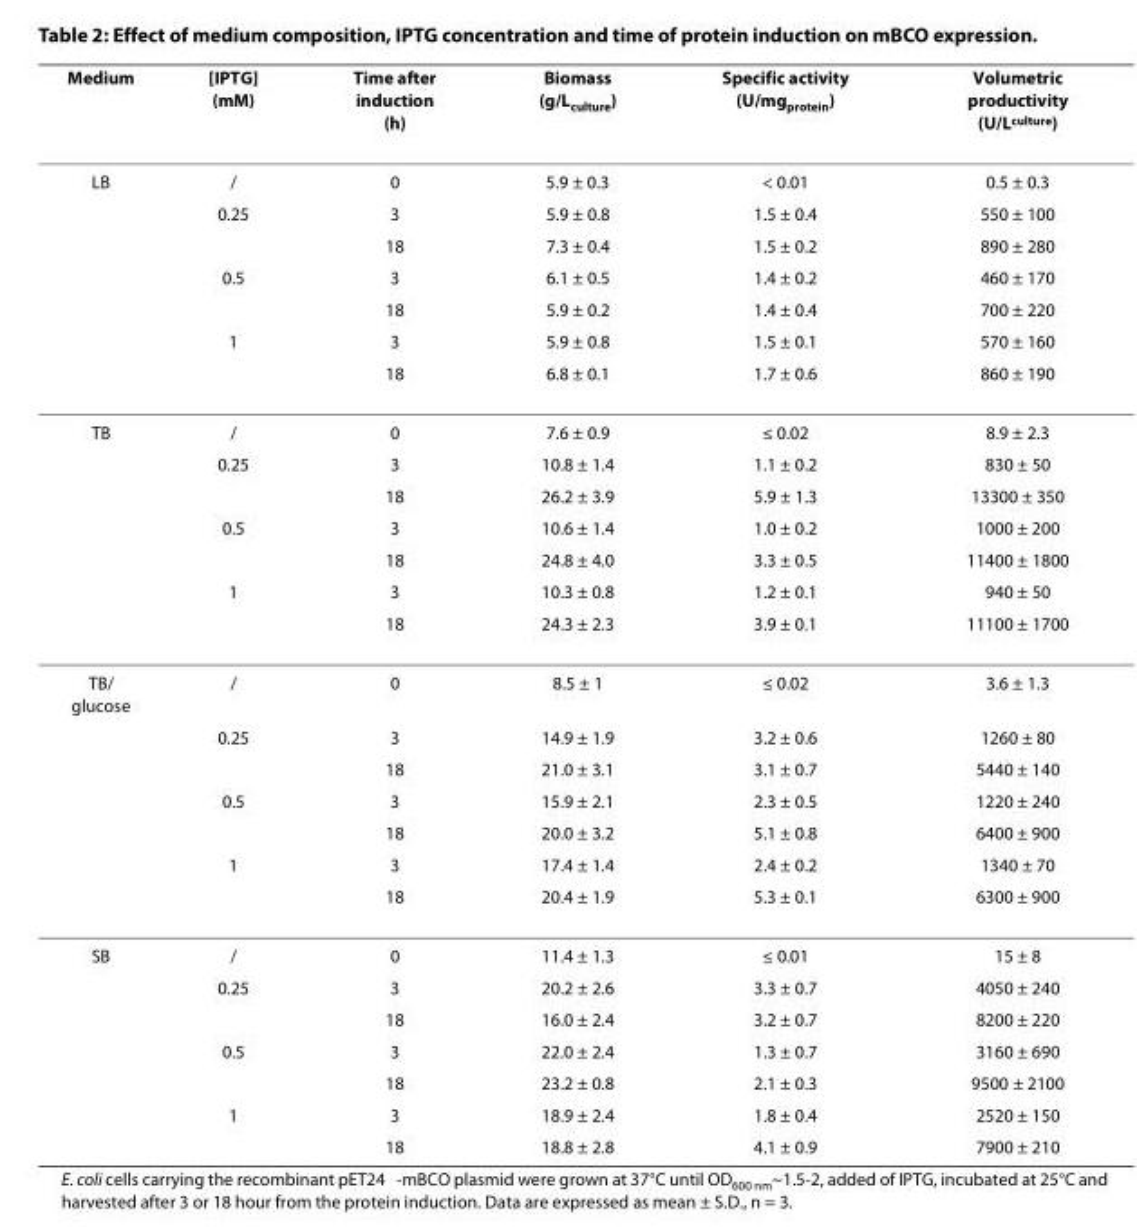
<table><thead><tr><td>Medium</td><td>[IPTG] (mM)</td><td>Time after induction (h)</td><td>Biomass (g/L<sub>culture</sub>)</td><td>Specific activity (U/mg<sub>protein</sub>)</td><td>Volumetric productivity (U/L<sub>culture</sub>)</td></tr></thead><tbody><tr><td rowspan="7">LB</td><td>/</td><td>0</td><td>5.9 ± 0.3</td><td>&lt; 0.01</td><td>0.5 ± 0.3</td></tr><tr><td>0.25</td><td>3</td><td>5.9 ± 0.8</td><td>1.5 ± 0.4</td><td>550 ± 100</td></tr><tr><td></td><td>18</td><td>7.3 ± 0.4</td><td>1.5 ± 0.2</td><td>890 ± 280</td></tr><tr><td>0.5</td><td>3</td><td>6.1 ± 0.5</td><td>1.4 ± 0.2</td><td>460 ± 170</td></tr><tr><td></td><td>18</td><td>5.9 ± 0.2</td><td>1.4 ± 0.4</td><td>700 ± 220</td></tr><tr><td>1</td><td>3</td><td>5.9 ± 0.8</td><td>1.5 ± 0.1</td><td>570 ± 160</td></tr><tr><td></td><td>18</td><td>6.8 ± 0.1</td><td>1.7 ± 0.6</td><td>860 ± 190</td></tr><tr><td rowspan="7">TB</td><td>/</td><td>0</td><td>7.6 ± 0.9</td><td>≤ 0.02</td><td>8.9 ± 2.3</td></tr><tr><td>0.25</td><td>3</td><td>10.8 ± 1.4</td><td>1.1 ± 0.2</td><td>830 ± 50</td></tr><tr><td></td><td>18</td><td>26.2 ± 3.9</td><td>5.9 ± 1.3</td><td>13300 ± 350</td></tr><tr><td>0.5</td><td>3</td><td>10.6 ± 1.4</td><td>1.0 ± 0.2</td><td>1000 ± 200</td></tr><tr><td></td><td>18</td><td>24.8 ± 4.0</td><td>3.3 ± 0.5</td><td>11400 ± 1800</td></tr><tr><td>1</td><td>3</td><td>10.3 ± 0.8</td><td>1.2 ± 0.1</td><td>940 ± 50</td></tr><tr><td></td><td>18</td><td>24.3 ± 2.3</td><td>3.9 ± 0.1</td><td>11100 ± 1700</td></tr><tr><td rowspan="7">TB/ glucose</td><td>/</td><td>0</td><td>8.5 ± 1</td><td>≤ 0.02</td><td>3.6 ± 1.3</td></tr><tr><td>0.25</td><td>3</td><td>14.9 ± 1.9</td><td>3.2 ± 0.6</td><td>1260 ± 80</td></tr><tr><td></td><td>18</td><td>21.0 ± 3.1</td><td>3.1 ± 0.7</td><td>5440 ± 140</td></tr><tr><td>0.5</td><td>3</td><td>15.9 ± 2.1</td><td>2.3 ± 0.5</td><td>1220 ± 240</td></tr><tr><td></td><td>18</td><td>20.0 ± 3.2</td><td>5.1 ± 0.8</td><td>6400 ± 900</td></tr><tr><td>1</td><td>3</td><td>17.4 ± 1.4</td><td>2.4 ± 0.2</td><td>1340 ± 70</td></tr><tr><td></td><td>18</td><td>20.4 ± 1.9</td><td>5.3 ± 0.1</td><td>6300 ± 900</td></tr><tr><td rowspan="7">SB</td><td>/</td><td>0</td><td>11.4 ± 1.3</td><td>≤ 0.01</td><td>15 ± 8</td></tr><tr><td>0.25</td><td>3</td><td>20.2 ± 2.6</td><td>3.3 ± 0.7</td><td>4050 ± 240</td></tr><tr><td></td><td>18</td><td>16.0 ± 2.4</td><td>3.2 ± 0.7</td><td>8200 ± 220</td></tr><tr><td>0.5</td><td>3</td><td>22.0 ± 2.4</td><td>1.3 ± 0.7</td><td>3160 ± 690</td></tr><tr><td></td><td>18</td><td>23.2 ± 0.8</td><td>2.1 ± 0.3</td><td>9500 ± 2100</td></tr><tr><td>1</td><td>3</td><td>18.9 ± 2.4</td><td>1.8 ± 0.4</td><td>2520 ± 150</td></tr><tr><td></td><td>18</td><td>18.8 ± 2.8</td><td>4.1 ± 0.9</td><td>7900 ± 210</td></tr></tbody></table>